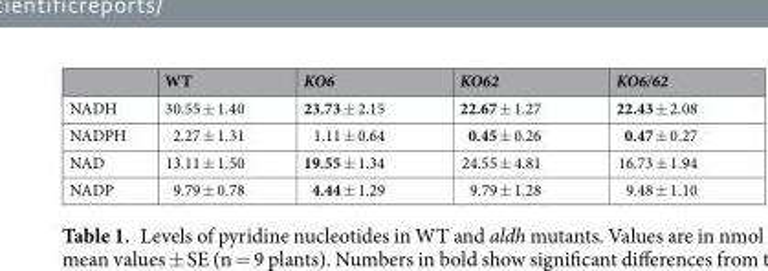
<table><thead><tr><td></td><td>WT</td><td>KO6</td><td>KO62</td><td>KO6/62</td></tr></thead><tbody><tr><td>NADH</td><td>30.55 ± 1.40</td><td>23.73 ± 2.15</td><td>22.67 ± 1.27</td><td>22.43 ± 2.08</td></tr><tr><td>NADPH</td><td>2.27 ± 1.31</td><td>1.11 ± 0.64</td><td>0.45 ± 0.26</td><td>0.47 ± 0.27</td></tr><tr><td>NAD</td><td>13.11 ± 1.50</td><td>19.55 ± 1.34</td><td>24.55 ± 4.81</td><td>16.73 ± 1.94</td></tr><tr><td>NADP</td><td>9.79 ± 0.78</td><td>4.44 ± 1.29</td><td>9.79 ± 1.28</td><td>9.48 ± 1.10</td></tr></tbody></table>